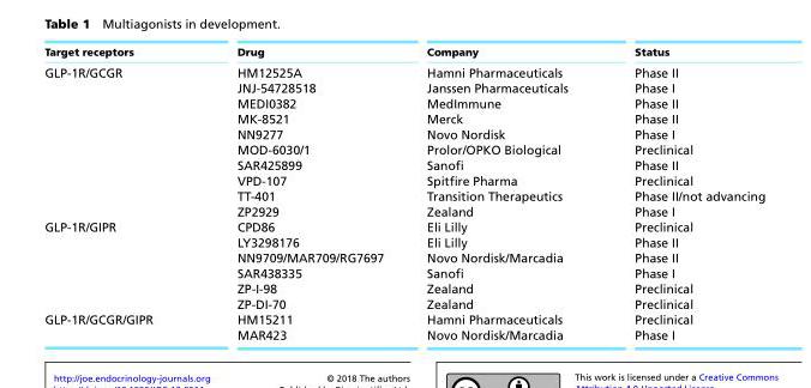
<table><thead><tr><td>Target receptors</td><td>Drug</td><td>Company</td><td>Status</td></tr></thead><tbody><tr><td rowspan="10">GLP-1R/GCGR</td><td>HM12525A</td><td>Hamni Pharmaceuticals</td><td>Phase II</td></tr><tr><td>JNJ-54728518</td><td>Janssen Pharmaceuticals</td><td>Phase I</td></tr><tr><td>MEDI0382</td><td>MedImmune</td><td>Phase II</td></tr><tr><td>MK-8521</td><td>Merck</td><td>Phase II</td></tr><tr><td>NN9277</td><td>Novo Nordisk</td><td>Phase I</td></tr><tr><td>MOD-6030/1</td><td>Prolor/OPKO Biological</td><td>Preclinical</td></tr><tr><td>SAR425899</td><td>Sanofi</td><td>Phase II</td></tr><tr><td>VPD-107</td><td>Spitfire Pharma</td><td>Preclinical</td></tr><tr><td>TT-401</td><td>Transition Therapeutics</td><td>Phase II/not advancing</td></tr><tr><td>ZP2929</td><td>Zealand</td><td>Phase I</td></tr><tr><td rowspan="6">GLP-1R/GIPR</td><td>CPD86</td><td>Eli Lilly</td><td>Preclinical</td></tr><tr><td>LY3298176</td><td>Eli Lilly</td><td>Phase II</td></tr><tr><td>NN9709/MAR709/RG7697</td><td>Novo Nordisk/Marcadia</td><td>Phase II</td></tr><tr><td>SAR438335</td><td>Sanofi</td><td>Phase I</td></tr><tr><td>ZP-I-98</td><td>Zealand</td><td>Preclinical</td></tr><tr><td>ZP-DI-70</td><td>Zealand</td><td>Preclinical</td></tr><tr><td rowspan="2">GLP-1R/GCGR/GIPR</td><td>HM15211</td><td>Hamni Pharmaceuticals</td><td>Preclinical</td></tr><tr><td>MAR423</td><td>Novo Nordisk/Marcadia</td><td>Phase I</td></tr></tbody></table>